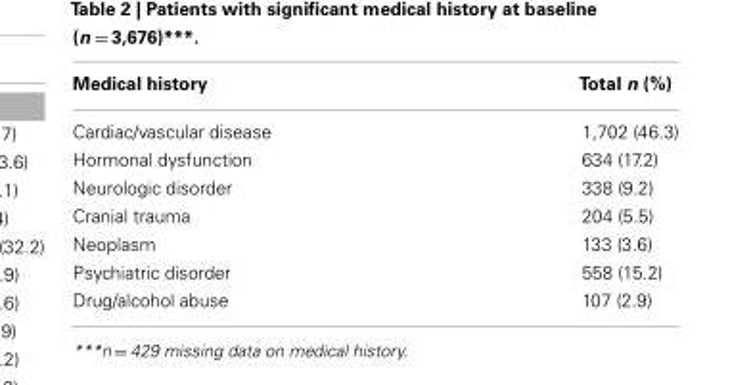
<table><thead><tr><td>Medical history</td><td>Total n (%)</td></tr></thead><tbody><tr><td>Cardiac/vascular disease</td><td>1,702 (46.3)</td></tr><tr><td>Hormonal dysfunction</td><td>634 (17.2)</td></tr><tr><td>Neurologic disorder</td><td>338 (9.2)</td></tr><tr><td>Cranial trauma</td><td>204 (5.5)</td></tr><tr><td>Neoplasm</td><td>133 (3.6)</td></tr><tr><td>Psychiatric disorder</td><td>558 (15.2)</td></tr><tr><td>Drug/alcohol abuse</td><td>107 (2.9)</td></tr></tbody></table>